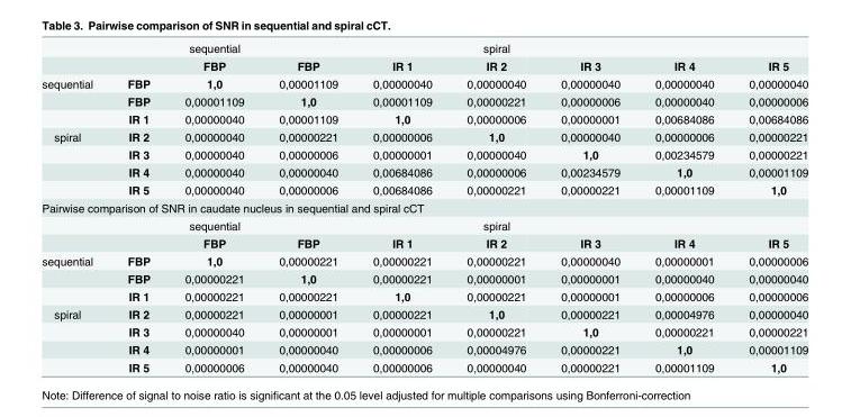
<table><thead><tr><td></td><td></td><td>sequential</td><td></td><td></td><td>spiral</td><td></td><td></td><td></td></tr></thead><tbody><tr><td></td><td></td><td>FBP</td><td>FBP</td><td>IR 1</td><td>IR 2</td><td>IR 3</td><td>IR 4</td><td>IR 5</td></tr><tr><td rowspan="3">sequential</td><td>FBP</td><td>1,0</td><td>0,00001109</td><td>0,00000040</td><td>0,00000040</td><td>0,00000040</td><td>0,00000040</td><td>0,00000040</td></tr><tr><td>FBP</td><td>0,00001109</td><td>1,0</td><td>0,00001109</td><td>0,00000221</td><td>0,00000006</td><td>0,00000040</td><td>0,00000006</td></tr><tr><td>IR 1</td><td>0,00000040</td><td>0,00001109</td><td>1,0</td><td>0,00000006</td><td>0,00000001</td><td>0,00684086</td><td>0,00684086</td></tr><tr><td rowspan="4">spiral</td><td>IR 2</td><td>0,00000040</td><td>0,00000221</td><td>0,00000006</td><td>1,0</td><td>0,00000040</td><td>0,00000006</td><td>0,00000221</td></tr><tr><td>IR 3</td><td>0,00000040</td><td>0,00000006</td><td>0,00000001</td><td>0,00000040</td><td>1,0</td><td>0,00234579</td><td>0,00000221</td></tr><tr><td>IR 4</td><td>0,00000040</td><td>0,00000040</td><td>0,00684086</td><td>0,00000006</td><td>0,00234579</td><td>1,0</td><td>0,00001109</td></tr><tr><td>IR 5</td><td>0,00000040</td><td>0,00000006</td><td>0,00684086</td><td>0,00000221</td><td>0,00000221</td><td>0,00001109</td><td>1,0</td></tr><tr><td colspan="9">Pairwise comparison of SNR in caudate nucleus in sequential and spiral cCT</td></tr><tr><td></td><td></td><td>sequential</td><td></td><td></td><td>spiral</td><td></td><td></td><td></td></tr><tr><td></td><td></td><td>FBP</td><td>FBP</td><td>IR 1</td><td>IR 2</td><td>IR 3</td><td>IR 4</td><td>IR 5</td></tr><tr><td rowspan="3">sequential</td><td>FBP</td><td>1,0</td><td>0,00000221</td><td>0,00000221</td><td>0,00000221</td><td>0,00000040</td><td>0,00000001</td><td>0,00000006</td></tr><tr><td>FBP</td><td>0,00000221</td><td>1,0</td><td>0,00000221</td><td>0,00000001</td><td>0,00000001</td><td>0,00000040</td><td>0,00000040</td></tr><tr><td>IR 1</td><td>0,00000221</td><td>0,00000221</td><td>1,0</td><td>0,00000221</td><td>0,00000001</td><td>0,00000006</td><td>0,00000006</td></tr><tr><td rowspan="4">spiral</td><td>IR 2</td><td>0,00000221</td><td>0,00000001</td><td>0,00000221</td><td>1,0</td><td>0,00000221</td><td>0,00004976</td><td>0,00000040</td></tr><tr><td>IR 3</td><td>0,00000040</td><td>0,00000001</td><td>0,00000001</td><td>0,00000221</td><td>1,0</td><td>0,00000221</td><td>0,00000221</td></tr><tr><td>IR 4</td><td>0,00000001</td><td>0,00000040</td><td>0,00000006</td><td>0,00004976</td><td>0,00000221</td><td>1,0</td><td>0,00001109</td></tr><tr><td>IR 5</td><td>0,00000006</td><td>0,00000040</td><td>0,00000006</td><td>0,00000040</td><td>0,00000221</td><td>0,00001109</td><td>1,0</td></tr></tbody></table>